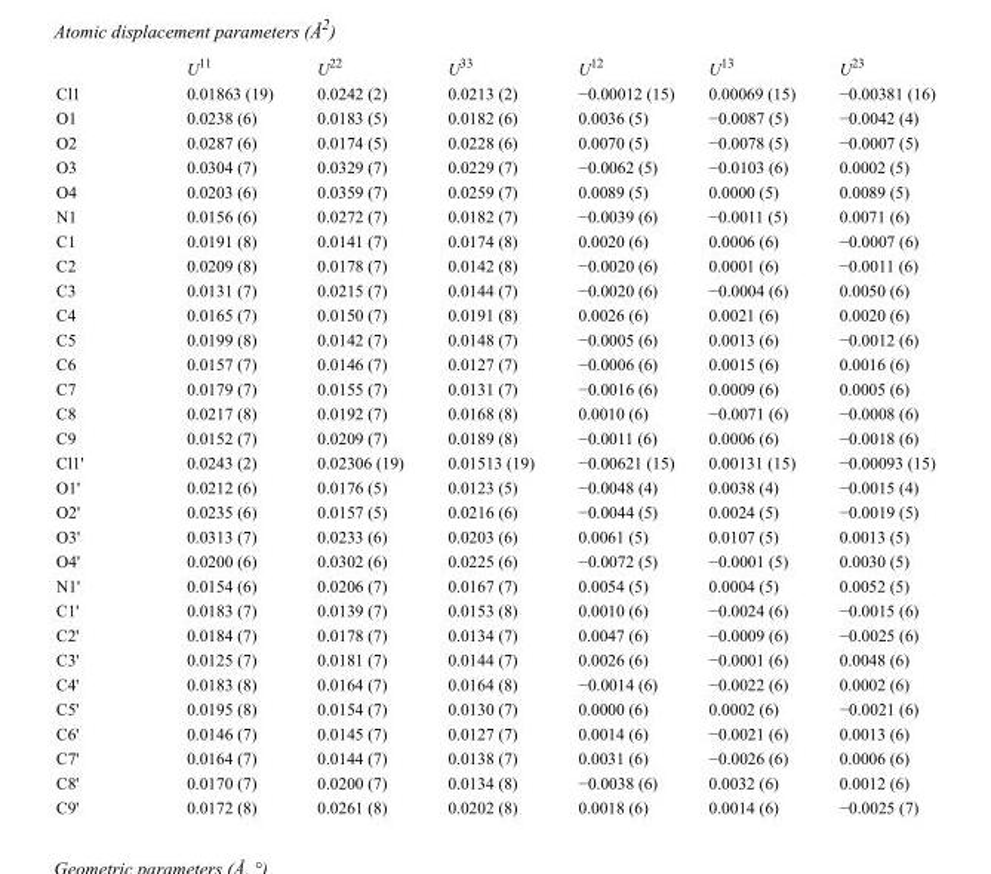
<table><thead><tr><td></td><td>U<sup>11</sup></td><td>U<sup>22</sup></td><td>U<sup>33</sup></td><td>U<sup>12</sup></td><td>U<sup>13</sup></td><td>U<sup>23</sup></td></tr></thead><tbody><tr><td>Cl1</td><td>0.01863 (19)</td><td>0.0242 (2)</td><td>0.0213 (2)</td><td>−0.00012 (15)</td><td>0.00069 (15)</td><td>−0.00381 (16)</td></tr><tr><td>O1</td><td>0.0238 (6)</td><td>0.0183 (5)</td><td>0.0182 (6)</td><td>0.0036 (5)</td><td>−0.0087 (5)</td><td>−0.0042 (4)</td></tr><tr><td>O2</td><td>0.0287 (6)</td><td>0.0174 (5)</td><td>0.0228 (6)</td><td>0.0070 (5)</td><td>−0.0078 (5)</td><td>−0.0007 (5)</td></tr><tr><td>O3</td><td>0.0304 (7)</td><td>0.0329 (7)</td><td>0.0229 (7)</td><td>−0.0062 (5)</td><td>−0.0103 (6)</td><td>0.0002 (5)</td></tr><tr><td>O4</td><td>0.0203 (6)</td><td>0.0359 (7)</td><td>0.0259 (7)</td><td>0.0089 (5)</td><td>0.0000 (5)</td><td>0.0089 (5)</td></tr><tr><td>N1</td><td>0.0156 (6)</td><td>0.0272 (7)</td><td>0.0182 (7)</td><td>−0.0039 (6)</td><td>−0.0011 (5)</td><td>0.0071 (6)</td></tr><tr><td>C1</td><td>0.0191 (8)</td><td>0.0141 (7)</td><td>0.0174 (8)</td><td>0.0020 (6)</td><td>0.0006 (6)</td><td>−0.0007 (6)</td></tr><tr><td>C2</td><td>0.0209 (8)</td><td>0.0178 (7)</td><td>0.0142 (8)</td><td>−0.0020 (6)</td><td>0.0001 (6)</td><td>−0.0011 (6)</td></tr><tr><td>C3</td><td>0.0131 (7)</td><td>0.0215 (7)</td><td>0.0144 (7)</td><td>−0.0020 (6)</td><td>−0.0004 (6)</td><td>0.0050 (6)</td></tr><tr><td>C4</td><td>0.0165 (7)</td><td>0.0150 (7)</td><td>0.0191 (8)</td><td>0.0026 (6)</td><td>0.0021 (6)</td><td>0.0020 (6)</td></tr><tr><td>C5</td><td>0.0199 (8)</td><td>0.0142 (7)</td><td>0.0148 (7)</td><td>−0.0005 (6)</td><td>0.0013 (6)</td><td>−0.0012 (6)</td></tr><tr><td>C6</td><td>0.0157 (7)</td><td>0.0146 (7)</td><td>0.0127 (7)</td><td>−0.0006 (6)</td><td>0.0015 (6)</td><td>0.0016 (6)</td></tr><tr><td>C7</td><td>0.0179 (7)</td><td>0.0155 (7)</td><td>0.0131 (7)</td><td>−0.0016 (6)</td><td>0.0009 (6)</td><td>0.0005 (6)</td></tr><tr><td>C8</td><td>0.0217 (8)</td><td>0.0192 (7)</td><td>0.0168 (8)</td><td>0.0010 (6)</td><td>−0.0071 (6)</td><td>−0.0008 (6)</td></tr><tr><td>C9</td><td>0.0152 (7)</td><td>0.0209 (7)</td><td>0.0189 (8)</td><td>−0.0011 (6)</td><td>0.0006 (6)</td><td>−0.0018 (6)</td></tr><tr><td>Cl1&#x27;</td><td>0.0243 (2)</td><td>0.02306 (19)</td><td>0.01513 (19)</td><td>−0.00621 (15)</td><td>0.00131 (15)</td><td>−0.00093 (15)</td></tr><tr><td>O1&#x27;</td><td>0.0212 (6)</td><td>0.0176 (5)</td><td>0.0123 (5)</td><td>−0.0048 (4)</td><td>0.0038 (4)</td><td>−0.0015 (4)</td></tr><tr><td>O2&#x27;</td><td>0.0235 (6)</td><td>0.0157 (5)</td><td>0.0216 (6)</td><td>−0.0044 (5)</td><td>0.0024 (5)</td><td>−0.0019 (5)</td></tr><tr><td>O3&#x27;</td><td>0.0313 (7)</td><td>0.0233 (6)</td><td>0.0203 (6)</td><td>0.0061 (5)</td><td>0.0107 (5)</td><td>0.0013 (5)</td></tr><tr><td>O4&#x27;</td><td>0.0200 (6)</td><td>0.0302 (6)</td><td>0.0225 (6)</td><td>−0.0072 (5)</td><td>−0.0001 (5)</td><td>0.0030 (5)</td></tr><tr><td>N1&#x27;</td><td>0.0154 (6)</td><td>0.0206 (7)</td><td>0.0167 (7)</td><td>0.0054 (5)</td><td>0.0004 (5)</td><td>0.0052 (5)</td></tr><tr><td>C1&#x27;</td><td>0.0183 (7)</td><td>0.0139 (7)</td><td>0.0153 (8)</td><td>0.0010 (6)</td><td>−0.0024 (6)</td><td>−0.0015 (6)</td></tr><tr><td>C2&#x27;</td><td>0.0184 (7)</td><td>0.0178 (7)</td><td>0.0134 (7)</td><td>0.0047 (6)</td><td>−0.0009 (6)</td><td>−0.0025 (6)</td></tr><tr><td>C3&#x27;</td><td>0.0125 (7)</td><td>0.0181 (7)</td><td>0.0144 (7)</td><td>0.0026 (6)</td><td>−0.0001 (6)</td><td>0.0048 (6)</td></tr><tr><td>C4&#x27;</td><td>0.0183 (8)</td><td>0.0164 (7)</td><td>0.0164 (8)</td><td>−0.0014 (6)</td><td>−0.0022 (6)</td><td>0.0002 (6)</td></tr><tr><td>C5&#x27;</td><td>0.0195 (8)</td><td>0.0154 (7)</td><td>0.0130 (7)</td><td>0.0000 (6)</td><td>0.0002 (6)</td><td>−0.0021 (6)</td></tr><tr><td>C6&#x27;</td><td>0.0146 (7)</td><td>0.0145 (7)</td><td>0.0127 (7)</td><td>0.0014 (6)</td><td>−0.0021 (6)</td><td>0.0013 (6)</td></tr><tr><td>C7&#x27;</td><td>0.0164 (7)</td><td>0.0144 (7)</td><td>0.0138 (7)</td><td>0.0031 (6)</td><td>−0.0026 (6)</td><td>0.0006 (6)</td></tr><tr><td>C8&#x27;</td><td>0.0170 (7)</td><td>0.0200 (7)</td><td>0.0134 (8)</td><td>−0.0038 (6)</td><td>0.0032 (6)</td><td>0.0012 (6)</td></tr><tr><td>C9&#x27;</td><td>0.0172 (8)</td><td>0.0261 (8)</td><td>0.0202 (8)</td><td>0.0018 (6)</td><td>0.0014 (6)</td><td>−0.0025 (7)</td></tr></tbody></table>